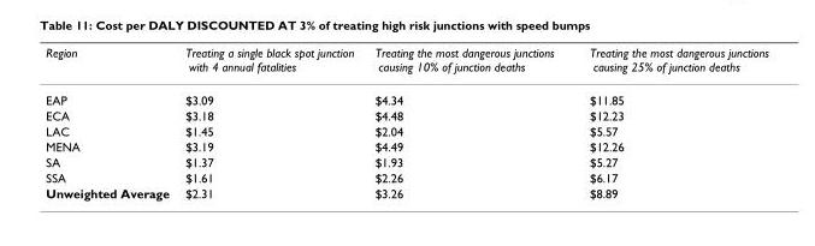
<table><thead><tr><td>Region</td><td>Treating a single black spot junction with 4 annual fatalities</td><td>Treating the most dangerous junctions causing 10% of junction deaths</td><td>Treating the most dangerous junctions causing 25% of junction deaths</td></tr></thead><tbody><tr><td>EAP</td><td>$3.09</td><td>$4.34</td><td>$11.85</td></tr><tr><td>ECA</td><td>$3.18</td><td>$4.48</td><td>$12.23</td></tr><tr><td>LAC</td><td>$1.45</td><td>$2.04</td><td>$5.57</td></tr><tr><td>MENA</td><td>$3.19</td><td>$4.49</td><td>$12.26</td></tr><tr><td>SA</td><td>$1.37</td><td>$1.93</td><td>$5.27</td></tr><tr><td>SSA</td><td>$1.61</td><td>$2.26</td><td>$6.17</td></tr><tr><td>Unweighted Average</td><td>$2.31</td><td>$3.26</td><td>$8.89</td></tr></tbody></table>